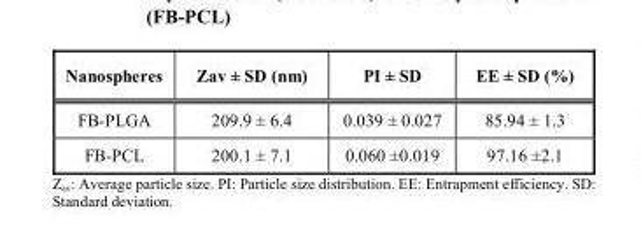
<table><thead><tr><td>Nanospheres</td><td>Zav ± SD (nm)</td><td>PI ± SD</td><td>EE ± SD (%)</td></tr></thead><tbody><tr><td>FB-PLGA</td><td>209.9 ± 6.4</td><td>0.039 ± 0.027</td><td>85.94 ± 1.3</td></tr><tr><td>FB-PCL</td><td>200.1 ± 7.1</td><td>0.060 ±0.019</td><td>97.16 ±2.1</td></tr></tbody></table>